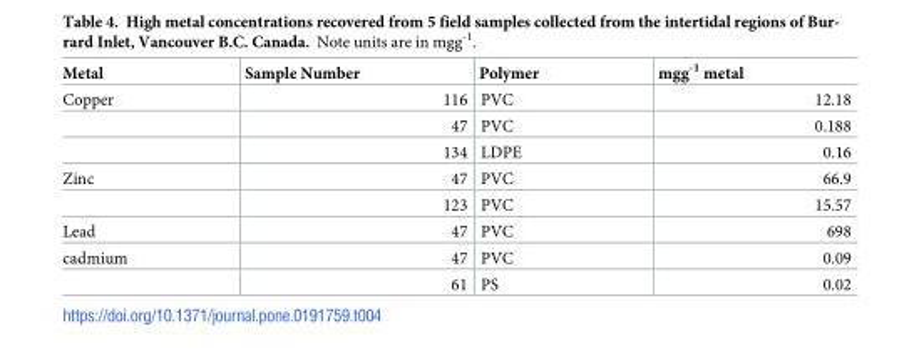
<table><thead><tr><td>Metal</td><td>Sample Number</td><td>Polymer</td><td>mgg<sup>-1</sup> metal</td></tr></thead><tbody><tr><td rowspan="3">Copper</td><td>116</td><td>PVC</td><td>12.18</td></tr><tr><td>47</td><td>PVC</td><td>0.188</td></tr><tr><td>134</td><td>LDPE</td><td>0.16</td></tr><tr><td rowspan="2">Zinc</td><td>47</td><td>PVC</td><td>66.9</td></tr><tr><td>123</td><td>PVC</td><td>15.57</td></tr><tr><td>Lead</td><td>47</td><td>PVC</td><td>698</td></tr><tr><td rowspan="2">cadmium</td><td>47</td><td>PVC</td><td>0.09</td></tr><tr><td>61</td><td>PS</td><td>0.02</td></tr></tbody></table>